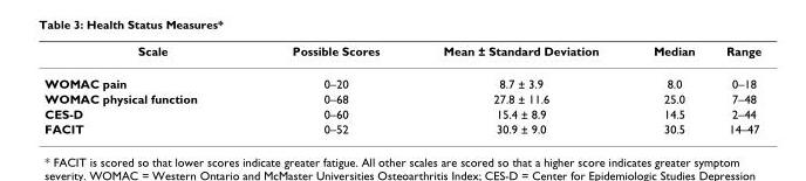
<table><thead><tr><td>Scale</td><td>Possible Scores</td><td>Mean ± Standard Deviation</td><td>Median</td><td>Range</td></tr></thead><tbody><tr><td>WOMAC pain</td><td>0–20</td><td>8.7 ± 3.9</td><td>8.0</td><td>0–18</td></tr><tr><td>WOMAC physical function</td><td>0–68</td><td>27.8 ± 11.6</td><td>25.0</td><td>7–48</td></tr><tr><td>CES-D</td><td>0–60</td><td>15.4 ± 8.9</td><td>14.5</td><td>2–44</td></tr><tr><td>FACIT</td><td>0–52</td><td>30.9 ± 9.0</td><td>30.5</td><td>14–47</td></tr></tbody></table>